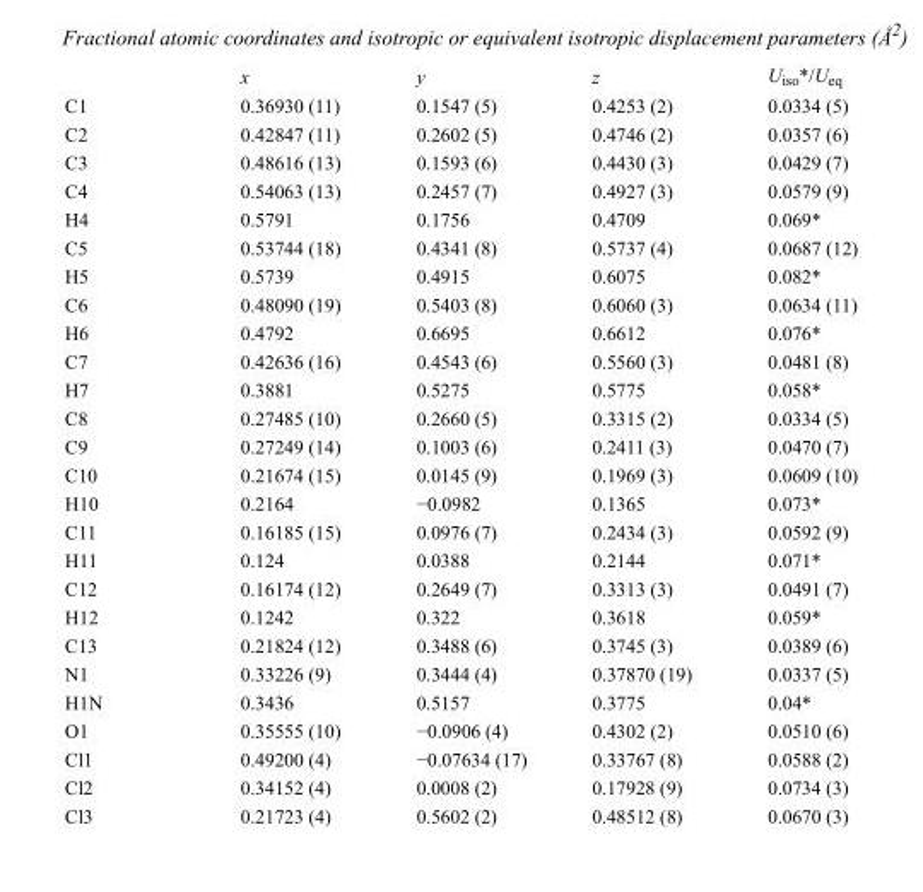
<table><thead><tr><td></td><td>x</td><td>y</td><td>z</td><td>U<sub>iso</sub>*/U<sub>eq</sub></td></tr></thead><tbody><tr><td>C1</td><td>0.36930 (11)</td><td>0.1547 (5)</td><td>0.4253 (2)</td><td>0.0334 (5)</td></tr><tr><td>C2</td><td>0.42847 (11)</td><td>0.2602 (5)</td><td>0.4746 (2)</td><td>0.0357 (6)</td></tr><tr><td>C3</td><td>0.48616 (13)</td><td>0.1593 (6)</td><td>0.4430 (3)</td><td>0.0429 (7)</td></tr><tr><td>C4</td><td>0.54063 (13)</td><td>0.2457 (7)</td><td>0.4927 (3)</td><td>0.0579 (9)</td></tr><tr><td>H4</td><td>0.5791</td><td>0.1756</td><td>0.4709</td><td>0.069*</td></tr><tr><td>C5</td><td>0.53744 (18)</td><td>0.4341 (8)</td><td>0.5737 (4)</td><td>0.0687 (12)</td></tr><tr><td>H5</td><td>0.5739</td><td>0.4915</td><td>0.6075</td><td>0.082*</td></tr><tr><td>C6</td><td>0.48090 (19)</td><td>0.5403 (8)</td><td>0.6060 (3)</td><td>0.0634 (11)</td></tr><tr><td>H6</td><td>0.4792</td><td>0.6695</td><td>0.6612</td><td>0.076*</td></tr><tr><td>C7</td><td>0.42636 (16)</td><td>0.4543 (6)</td><td>0.5560 (3)</td><td>0.0481 (8)</td></tr><tr><td>H7</td><td>0.3881</td><td>0.5275</td><td>0.5775</td><td>0.058*</td></tr><tr><td>C8</td><td>0.27485 (10)</td><td>0.2660 (5)</td><td>0.3315 (2)</td><td>0.0334 (5)</td></tr><tr><td>C9</td><td>0.27249 (14)</td><td>0.1003 (6)</td><td>0.2411 (3)</td><td>0.0470 (7)</td></tr><tr><td>C10</td><td>0.21674 (15)</td><td>0.0145 (9)</td><td>0.1969 (3)</td><td>0.0609 (10)</td></tr><tr><td>H10</td><td>0.2164</td><td>−0.0982</td><td>0.1365</td><td>0.073*</td></tr><tr><td>C11</td><td>0.16185 (15)</td><td>0.0976 (7)</td><td>0.2434 (3)</td><td>0.0592 (9)</td></tr><tr><td>H11</td><td>0.124</td><td>0.0388</td><td>0.2144</td><td>0.071*</td></tr><tr><td>C12</td><td>0.16174 (12)</td><td>0.2649 (7)</td><td>0.3313 (3)</td><td>0.0491 (7)</td></tr><tr><td>H12</td><td>0.1242</td><td>0.322</td><td>0.3618</td><td>0.059*</td></tr><tr><td>C13</td><td>0.21824 (12)</td><td>0.3488 (6)</td><td>0.3745 (3)</td><td>0.0389 (6)</td></tr><tr><td>N1</td><td>0.33226 (9)</td><td>0.3444 (4)</td><td>0.37870 (19)</td><td>0.0337 (5)</td></tr><tr><td>H1N</td><td>0.3436</td><td>0.5157</td><td>0.3775</td><td>0.04*</td></tr><tr><td>O1</td><td>0.35555 (10)</td><td>−0.0906 (4)</td><td>0.4302 (2)</td><td>0.0510 (6)</td></tr><tr><td>Cl1</td><td>0.49200 (4)</td><td>−0.07634 (17)</td><td>0.33767 (8)</td><td>0.0588 (2)</td></tr><tr><td>Cl2</td><td>0.34152 (4)</td><td>0.0008 (2)</td><td>0.17928 (9)</td><td>0.0734 (3)</td></tr><tr><td>Cl3</td><td>0.21723 (4)</td><td>0.5602 (2)</td><td>0.48512 (8)</td><td>0.0670 (3)</td></tr></tbody></table>